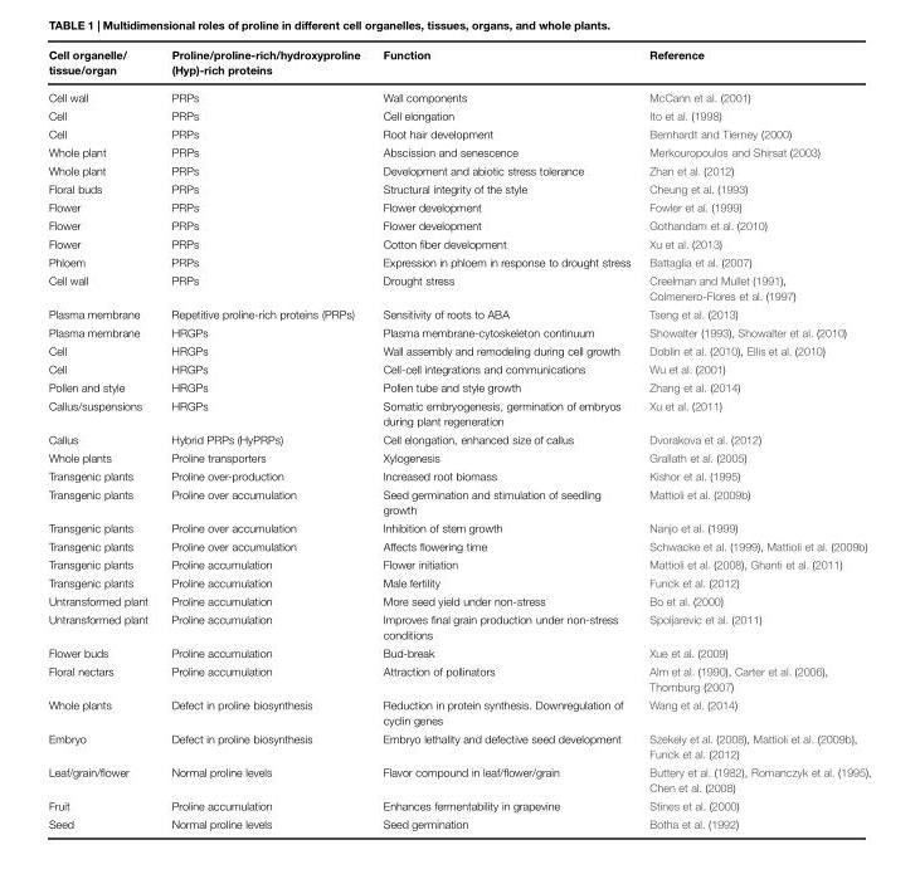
<table><thead><tr><td>Cell organelle/ tissue/organ</td><td>Proline/proline-rich/hydroxyproline (Hyp)-rich proteins</td><td>Function</td><td>Reference</td></tr></thead><tbody><tr><td>Cell wall</td><td>PRPs</td><td>Wall components</td><td>McCann et al. (2001)</td></tr><tr><td>Cell</td><td>PRPs</td><td>Cell elongation</td><td>Ito et al. (1998)</td></tr><tr><td>Cell</td><td>PRPs</td><td>Root hair development</td><td>Bernhardt and Tierney (2000)</td></tr><tr><td>Whole plant</td><td>PRPs</td><td>Abscission and senescence</td><td>Merkouropoulos and Shirsat (2003)</td></tr><tr><td>Whole plant</td><td>PRPs</td><td>Development and abiotic stress tolerance</td><td>Zhan et al. (2012)</td></tr><tr><td>Floral buds</td><td>PRPs</td><td>Structural integrity of the style</td><td>Cheung et al. (1993)</td></tr><tr><td>Flower</td><td>PRPs</td><td>Flower development</td><td>Fowler et al. (1999)</td></tr><tr><td>Flower</td><td>PRPs</td><td>Flower development</td><td>Gothandam et al. (2010)</td></tr><tr><td>Flower</td><td>PRPs</td><td>Cotton fiber development</td><td>Xu et al. (2013)</td></tr><tr><td>Phloem</td><td>PRPs</td><td>Expression in phloem in response to drought stress</td><td>Battaglia et al. (2007)</td></tr><tr><td>Cell wall</td><td>PRPs</td><td>Drought stress</td><td>Creelman and Mullet (1991), Colmenero-Flores et al. (1997)</td></tr><tr><td>Plasma membrane</td><td>Repetitive proline-rich proteins (PRPs)</td><td>Sensitivity of roots to ABA</td><td>Tseng et al. (2013)</td></tr><tr><td>Plasma membrane</td><td>HRGPs</td><td>Plasma membrane-cytoskeleton continuum</td><td>Showalter (1993), Showalter et al. (2010)</td></tr><tr><td>Cell</td><td>HRGPs</td><td>Wall assembly and remodeling during cell growth</td><td>Doblin et al. (2010), Ellis et al. (2010)</td></tr><tr><td>Cell</td><td>HRGPs</td><td>Cell-cell integrations and communications</td><td>Wu et al. (2001)</td></tr><tr><td>Pollen and style</td><td>HRGPs</td><td>Pollen tube and style growth</td><td>Zhang et al. (2014)</td></tr><tr><td>Callus/suspensions</td><td>HRGPs</td><td>Somatic embryogenesis, germination of embryos during plant regeneration</td><td>Xu et al. (2011)</td></tr><tr><td>Callus</td><td>Hybrid PRPs (HyPRPs)</td><td>Cell elongation, enhanced size of callus</td><td>Dvorakova et al. (2012)</td></tr><tr><td>Whole plants</td><td>Proline transporters</td><td>Xylogenesis</td><td>Grallath et al. (2005)</td></tr><tr><td>Transgenic plants</td><td>Proline over-production</td><td>Increased root biomass</td><td>Kishor et al. (1995)</td></tr><tr><td>Transgenic plants</td><td>Proline over accumulation</td><td>Seed germination and stimulation of seedling growth</td><td>Mattioli et al. (2009b)</td></tr><tr><td>Transgenic plants</td><td>Proline over accumulation</td><td>Inhibition of stem growth</td><td>Nanjo et al. (1999)</td></tr><tr><td>Transgenic plants</td><td>Proline over accumulation</td><td>Affects flowering time</td><td>Schwacke et al. (1999), Mattioli et al. (2009b)</td></tr><tr><td>Transgenic plants</td><td>Proline accumulation</td><td>Flower initiation</td><td>Mattioli et al. (2008), Ghanti et al. (2011)</td></tr><tr><td>Transgenic plants</td><td>Proline accumulation</td><td>Male fertility</td><td>Funck et al. (2012)</td></tr><tr><td>Untransformed plant</td><td>Proline accumulation</td><td>More seed yield under non-stress</td><td>Bo et al. (2000)</td></tr><tr><td>Untransformed plant</td><td>Proline accumulation</td><td>Improves final grain production under non-stress conditions</td><td>Spoljarevic et al. (2011)</td></tr><tr><td>Flower buds</td><td>Proline accumulation</td><td>Bud-break</td><td>Xue et al. (2009)</td></tr><tr><td>Floral nectars</td><td>Proline accumulation</td><td>Attraction of pollinators</td><td>Alm et al. (1990), Carter et al. (2006), Thornburg (2007)</td></tr><tr><td>Whole plants</td><td>Defect in proline biosynthesis</td><td>Reduction in protein synthesis. Downregulation of cyclin genes</td><td>Wang et al. (2014)</td></tr><tr><td>Embryo</td><td>Defect in proline biosynthesis</td><td>Embryo lethality and defective seed development</td><td>Szekely et al. (2008), Mattioli et al. (2009b), Funck et al. (2012)</td></tr><tr><td>Leaf/grain/flower</td><td>Normal proline levels</td><td>Flavor compound in leaf/flower/grain</td><td>Buttery et al. (1982), Romanczyk et al. (1995), Chen et al. (2008)</td></tr><tr><td>Fruit</td><td>Proline accumulation</td><td>Enhances fermentability in grapevine</td><td>Stines et al. (2000)</td></tr><tr><td>Seed</td><td>Normal proline levels</td><td>Seed germination</td><td>Botha et al. (1992)</td></tr></tbody></table>